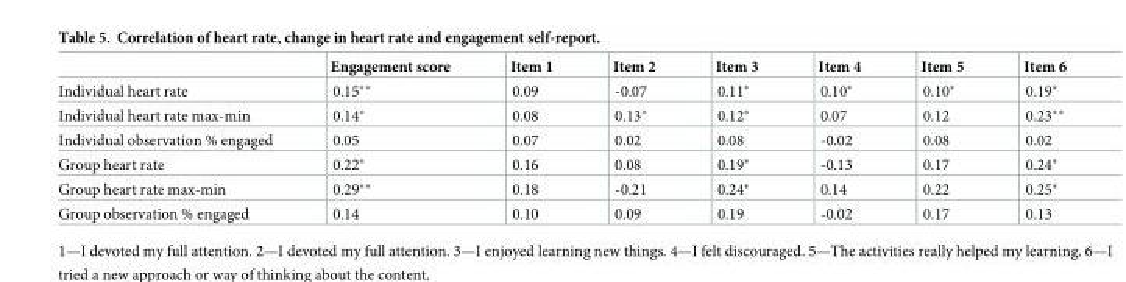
<table><thead><tr><td></td><td>Engagement score</td><td>Item 1</td><td>Item 2</td><td>Item 3</td><td>Item 4</td><td>Item 5</td><td>Item 6</td></tr></thead><tbody><tr><td>Individual heart rate</td><td>0.15**</td><td>0.09</td><td>-0.07</td><td>0.11*</td><td>0.10*</td><td>0.10*</td><td>0.19*</td></tr><tr><td>Individual heart rate max-min</td><td>0.14*</td><td>0.08</td><td>0.13*</td><td>0.12*</td><td>0.07</td><td>0.12</td><td>0.23**</td></tr><tr><td>Individual observation % engaged</td><td>0.05</td><td>0.07</td><td>0.02</td><td>0.08</td><td>-0.02</td><td>0.08</td><td>0.02</td></tr><tr><td>Group heart rate</td><td>0.22*</td><td>0.16</td><td>0.08</td><td>0.19*</td><td>-0.13</td><td>0.17</td><td>0.24*</td></tr><tr><td>Group heart rate max-min</td><td>0.29**</td><td>0.18</td><td>-0.21</td><td>0.24*</td><td>0.14</td><td>0.22</td><td>0.25*</td></tr><tr><td>Group observation % engaged</td><td>0.14</td><td>0.10</td><td>0.09</td><td>0.19</td><td>-0.02</td><td>0.17</td><td>0.13</td></tr></tbody></table>